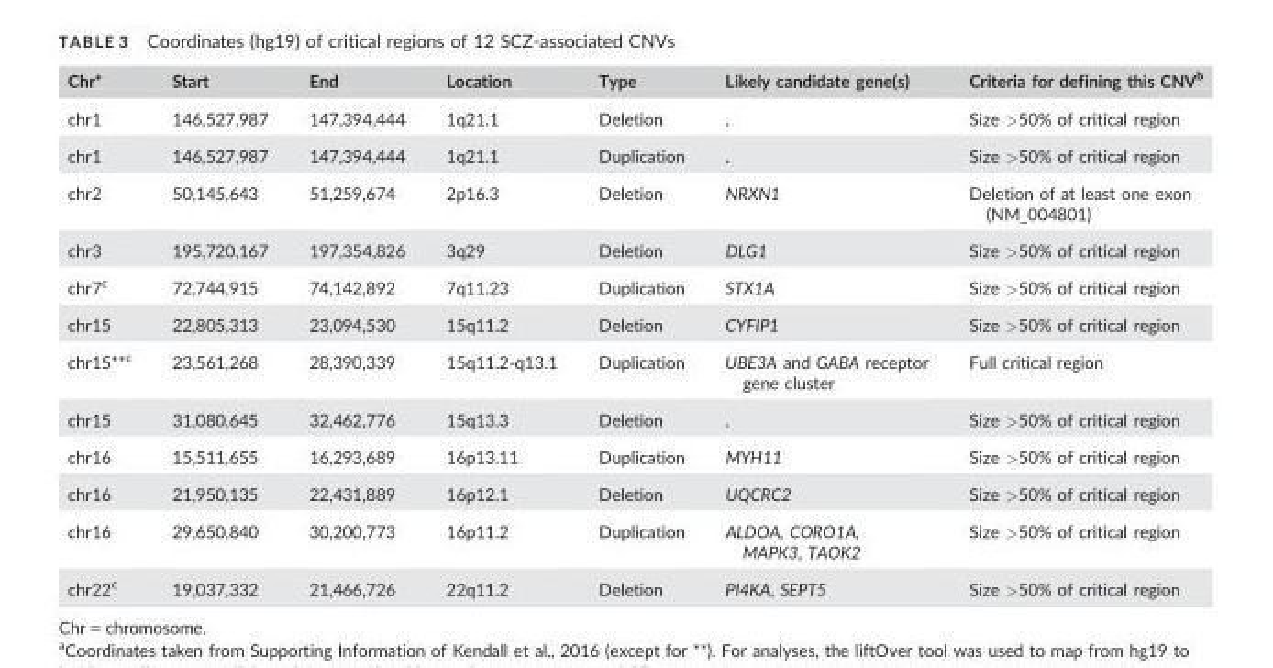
<table><thead><tr><td>Chr*</td><td>Start</td><td>End</td><td>Location</td><td>Type</td><td>Likely candidate gene(s)</td><td>Criteria for defining this CNV<sup>b</sup></td></tr></thead><tbody><tr><td>chr1</td><td>146,527,987</td><td>147,394,444</td><td>1q21.1</td><td>Deletion</td><td>.</td><td>Size &gt;50% of critical region</td></tr><tr><td>chr1</td><td>146,527,987</td><td>147,394,444</td><td>1q21.1</td><td>Duplication</td><td>.</td><td>Size &gt;50% of critical region</td></tr><tr><td>chr2</td><td>50,145,643</td><td>51,259,674</td><td>2p16.3</td><td>Deletion</td><td>NRXN1</td><td>Deletion of at least one exon (NM_004801)</td></tr><tr><td>chr3</td><td>195,720,167</td><td>197,354,826</td><td>3q29</td><td>Deletion</td><td>DLG1</td><td>Size &gt;50% of critical region</td></tr><tr><td>chr7<sup>c</sup></td><td>72,744,915</td><td>74,142,892</td><td>7q11.23</td><td>Duplication</td><td>STX1A</td><td>Size &gt;50% of critical region</td></tr><tr><td>chr15</td><td>22,805,313</td><td>23,094,530</td><td>15q11.2</td><td>Deletion</td><td>CYFIP1</td><td>Size &gt;50% of critical region</td></tr><tr><td>chr15**<sup>c</sup></td><td>23,561,268</td><td>28,390,339</td><td>15q11.2-q13.1</td><td>Duplication</td><td>UBE3A and GABA receptor gene cluster</td><td>Full critical region</td></tr><tr><td>chr15</td><td>31,080,645</td><td>32,462,776</td><td>15q13.3</td><td>Deletion</td><td>.</td><td>Size &gt;50% of critical region</td></tr><tr><td>chr16</td><td>15,511,655</td><td>16,293,689</td><td>16p13.11</td><td>Duplication</td><td>MYH11</td><td>Size &gt;50% of critical region</td></tr><tr><td>chr16</td><td>21,950,135</td><td>22,431,889</td><td>16p12.1</td><td>Deletion</td><td>UQCRC2</td><td>Size &gt;50% of critical region</td></tr><tr><td>chr16</td><td>29,650,840</td><td>30,200,773</td><td>16p11.2</td><td>Duplication</td><td>ALDOA, CORO1A, MAPK3, TAOK2</td><td>Size &gt;50% of critical region</td></tr><tr><td>chr22<sup>c</sup></td><td>19,037,332</td><td>21,466,726</td><td>22q11.2</td><td>Deletion</td><td>PI4KA, SEPT5</td><td>Size &gt;50% of critical region</td></tr></tbody></table>